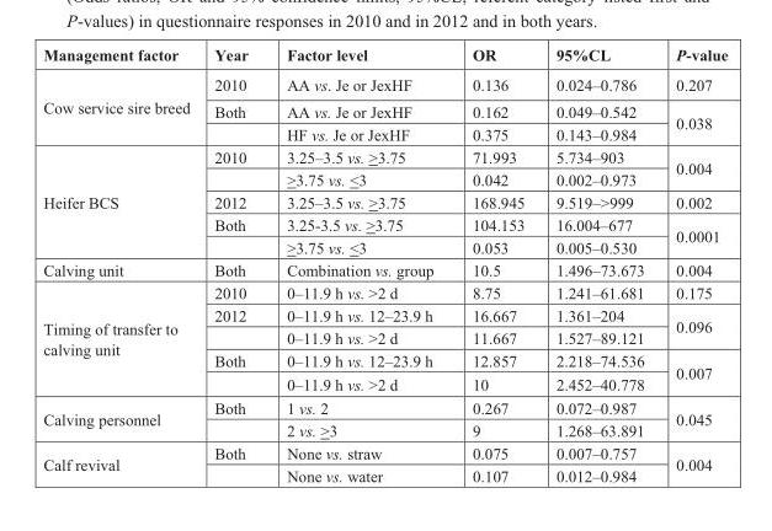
<table><thead><tr><td>Management factor</td><td>Year</td><td>Factor level</td><td>OR</td><td>95%CL</td><td>P-value</td></tr></thead><tbody><tr><td rowspan="3">Cow service sire breed</td><td>2010</td><td>AA vs. Je or JexHF</td><td>0.136</td><td>0.024–0.786</td><td>0.207</td></tr><tr><td>Both</td><td>AA vs. Je or JexHF</td><td>0.162</td><td>0.049–0.542</td><td rowspan="2">0.038</td></tr><tr><td></td><td>HF vs. Je or JexHF</td><td>0.375</td><td>0.143–0.984</td></tr><tr><td rowspan="5">Heifer BCS</td><td>2010</td><td>3.25–3.5 vs. &gt;3.75</td><td>71.993</td><td>5.734–903</td><td rowspan="2">0.004</td></tr><tr><td></td><td>&gt;3.75 vs. &lt;3</td><td>0.042</td><td>0.002–0.973</td></tr><tr><td>2012</td><td>3.25–3.5 vs. &gt;3.75</td><td>168.945</td><td>9.519–&gt;999</td><td>0.002</td></tr><tr><td>Both</td><td>3.25-3.5 vs. &gt;3.75</td><td>104.153</td><td>16.004–677</td><td rowspan="2">0.0001</td></tr><tr><td></td><td>&gt;3.75 vs. &lt;3</td><td>0.053</td><td>0.005–0.530</td></tr><tr><td>Calving unit</td><td>Both</td><td>Combination vs. group</td><td>10.5</td><td>1.496–73.673</td><td>0.004</td></tr><tr><td rowspan="5">Timing of transfer to calving unit</td><td>2010</td><td>0–11.9 h vs. &gt;2 d</td><td>8.75</td><td>1.241–61.681</td><td>0.175</td></tr><tr><td>2012</td><td>0–11.9 h vs. 12–23.9 h</td><td>16.667</td><td>1.361–204</td><td rowspan="2">0.096</td></tr><tr><td></td><td>0–11.9 h vs. &gt;2 d</td><td>11.667</td><td>1.527–89.121</td></tr><tr><td>Both</td><td>0–11.9 h vs. 12–23.9 h</td><td>12.857</td><td>2.218–74.536</td><td rowspan="2">0.007</td></tr><tr><td></td><td>0–11.9 h vs. &gt;2 d</td><td>10</td><td>2.452–40.778</td></tr><tr><td rowspan="2">Calving personnel</td><td>Both</td><td>1 vs. 2</td><td>0.267</td><td>0.072–0.987</td><td rowspan="2">0.045</td></tr><tr><td></td><td>2 vs. &gt;3</td><td>9</td><td>1.268–63.891</td></tr><tr><td rowspan="2">Calf revival</td><td>Both</td><td>None vs. straw</td><td>0.075</td><td>0.007–0.757</td><td rowspan="2">0.004</td></tr><tr><td></td><td>None vs. water</td><td>0.107</td><td>0.012–0.984</td></tr></tbody></table>